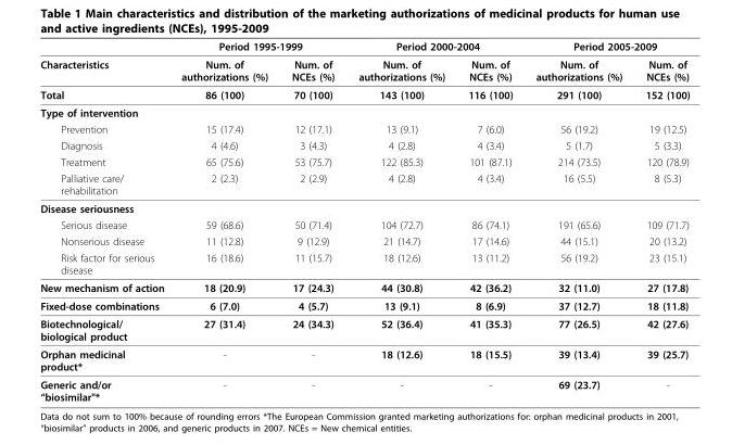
<table><thead><tr><td rowspan="2">Characteristics</td><td colspan="2">Period 1995-1999</td><td colspan="2">Period 2000-2004</td><td colspan="2">Period 2005-2009</td></tr><tr><td>Num. of authorizations (%)</td><td>Num. of NCEs (%)</td><td>Num. of authorizations (%)</td><td>Num. of NCEs (%)</td><td>Num. of authorizations (%)</td><td>Num. of NCEs (%)</td></tr></thead><tbody><tr><td>Total</td><td>86 (100)</td><td>70 (100)</td><td>143 (100)</td><td>116 (100)</td><td>291 (100)</td><td>152 (100)</td></tr><tr><td colspan="7">Type of intervention</td></tr><tr><td>Prevention</td><td>15 (17.4)</td><td>12 (17.1)</td><td>13 (9.1)</td><td>7 (6.0)</td><td>56 (19.2)</td><td>19 (12.5)</td></tr><tr><td>Diagnosis</td><td>4 (4.6)</td><td>3 (4.3)</td><td>4 (2.8)</td><td>4 (3.4)</td><td>5 (1.7)</td><td>5 (3.3)</td></tr><tr><td>Treatment</td><td>65 (75.6)</td><td>53 (75.7)</td><td>122 (85.3)</td><td>101 (87.1)</td><td>214 (73.5)</td><td>120 (78.9)</td></tr><tr><td>Palliative care/ rehabilitation</td><td>2 (2.3)</td><td>2 (2.9)</td><td>4 (2.8)</td><td>4 (3.4)</td><td>16 (5.5)</td><td>8 (5.3)</td></tr><tr><td colspan="7">Disease seriousness</td></tr><tr><td>Serious disease</td><td>59 (68.6)</td><td>50 (71.4)</td><td>104 (72.7)</td><td>86 (74.1)</td><td>191 (65.6)</td><td>109 (71.7)</td></tr><tr><td>Nonserious disease</td><td>11 (12.8)</td><td>9 (12.9)</td><td>21 (14.7)</td><td>17 (14.6)</td><td>44 (15.1)</td><td>20 (13.2)</td></tr><tr><td>Risk factor for serious disease</td><td>16 (18.6)</td><td>11 (15.7)</td><td>18 (12.6)</td><td>13 (11.2)</td><td>56 (19.2)</td><td>23 (15.1)</td></tr><tr><td>New mechanism of action</td><td>18 (20.9)</td><td>17 (24.3)</td><td>44 (30.8)</td><td>42 (36.2)</td><td>32 (11.0)</td><td>27 (17.8)</td></tr><tr><td>Fixed-dose combinations</td><td>6 (7.0)</td><td>4 (5.7)</td><td>13 (9.1)</td><td>8 (6.9)</td><td>37 (12.7)</td><td>18 (11.8)</td></tr><tr><td>Biotechnological/ biological product</td><td>27 (31.4)</td><td>24 (34.3)</td><td>52 (36.4)</td><td>41 (35.3)</td><td>77 (26.5)</td><td>42 (27.6)</td></tr><tr><td>Orphan medicinal product*</td><td>-</td><td>-</td><td>18 (12.6)</td><td>18 (15.5)</td><td>39 (13.4)</td><td>39 (25.7)</td></tr><tr><td>Generic and/or “biosimilar&quot;*</td><td>-</td><td>-</td><td>-</td><td>-</td><td>69 (23.7)</td><td>-</td></tr></tbody></table>